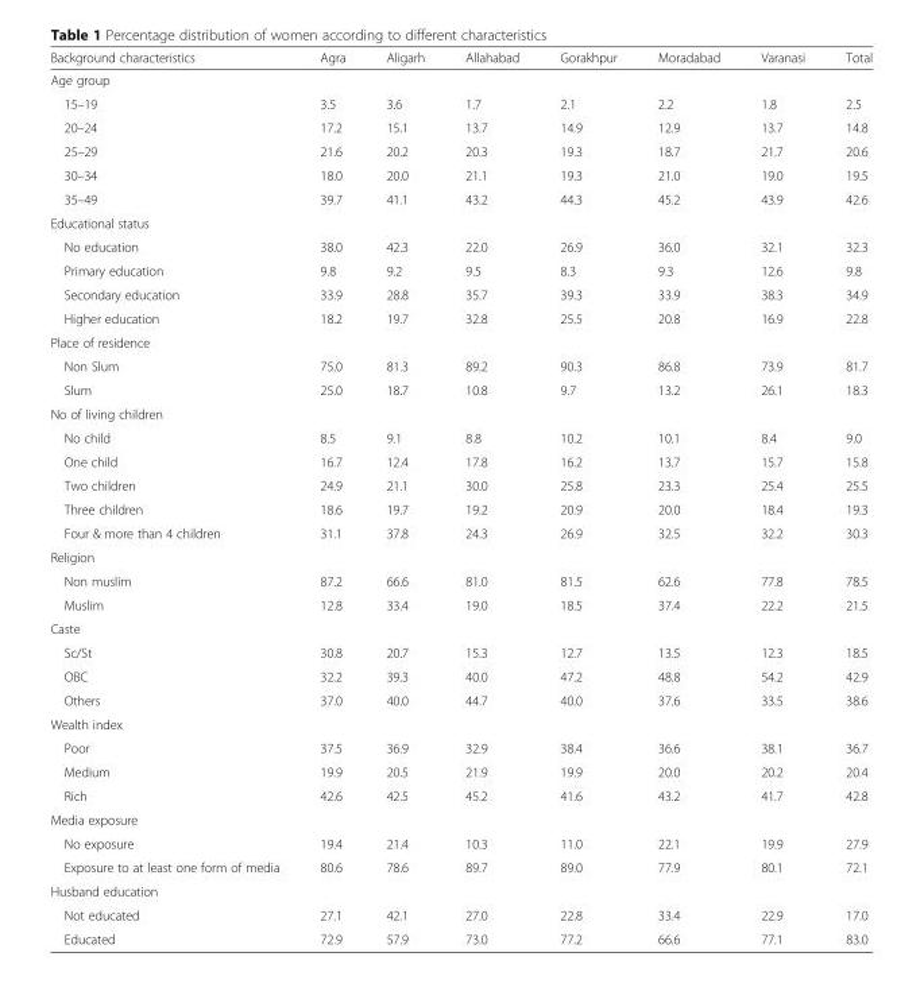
<table><thead><tr><td>Background characteristics</td><td>Agra</td><td>Aligarh</td><td>Allahabad</td><td>Gorakhpur</td><td>Moradabad</td><td>Varanasi</td><td>Total</td></tr></thead><tbody><tr><td colspan="8">Age group</td></tr><tr><td>15–19</td><td>3.5</td><td>3.6</td><td>1.7</td><td>2.1</td><td>2.2</td><td>1.8</td><td>2.5</td></tr><tr><td>20–24</td><td>17.2</td><td>15.1</td><td>13.7</td><td>14.9</td><td>12.9</td><td>13.7</td><td>14.8</td></tr><tr><td>25–29</td><td>21.6</td><td>20.2</td><td>20.3</td><td>19.3</td><td>18.7</td><td>21.7</td><td>20.6</td></tr><tr><td>30–34</td><td>18.0</td><td>20.0</td><td>21.1</td><td>19.3</td><td>21.0</td><td>19.0</td><td>19.5</td></tr><tr><td>35–49</td><td>39.7</td><td>41.1</td><td>43.2</td><td>44.3</td><td>45.2</td><td>43.9</td><td>42.6</td></tr><tr><td colspan="8">Educational status</td></tr><tr><td>No education</td><td>38.0</td><td>42.3</td><td>22.0</td><td>26.9</td><td>36.0</td><td>32.1</td><td>32.3</td></tr><tr><td>Primary education</td><td>9.8</td><td>9.2</td><td>9.5</td><td>8.3</td><td>9.3</td><td>12.6</td><td>9.8</td></tr><tr><td>Secondary education</td><td>33.9</td><td>28.8</td><td>35.7</td><td>39.3</td><td>33.9</td><td>38.3</td><td>34.9</td></tr><tr><td>Higher education</td><td>18.2</td><td>19.7</td><td>32.8</td><td>25.5</td><td>20.8</td><td>16.9</td><td>22.8</td></tr><tr><td colspan="8">Place of residence</td></tr><tr><td>Non Slum</td><td>75.0</td><td>81.3</td><td>89.2</td><td>90.3</td><td>86.8</td><td>73.9</td><td>81.7</td></tr><tr><td>Slum</td><td>25.0</td><td>18.7</td><td>10.8</td><td>9.7</td><td>13.2</td><td>26.1</td><td>18.3</td></tr><tr><td colspan="8">No of living children</td></tr><tr><td>No child</td><td>8.5</td><td>9.1</td><td>8.8</td><td>10.2</td><td>10.1</td><td>8.4</td><td>9.0</td></tr><tr><td>One child</td><td>16.7</td><td>12.4</td><td>17.8</td><td>16.2</td><td>13.7</td><td>15.7</td><td>15.8</td></tr><tr><td>Two children</td><td>24.9</td><td>21.1</td><td>30.0</td><td>25.8</td><td>23.3</td><td>25.4</td><td>25.5</td></tr><tr><td>Three children</td><td>18.6</td><td>19.7</td><td>19.2</td><td>20.9</td><td>20.0</td><td>18.4</td><td>19.3</td></tr><tr><td>Four &amp; more than 4 children</td><td>31.1</td><td>37.8</td><td>24.3</td><td>26.9</td><td>32.5</td><td>32.2</td><td>30.3</td></tr><tr><td colspan="8">Religion</td></tr><tr><td>Non muslim</td><td>87.2</td><td>66.6</td><td>81.0</td><td>81.5</td><td>62.6</td><td>77.8</td><td>78.5</td></tr><tr><td>Muslim</td><td>12.8</td><td>33.4</td><td>19.0</td><td>18.5</td><td>37.4</td><td>22.2</td><td>21.5</td></tr><tr><td colspan="8">Caste</td></tr><tr><td>Sc/St</td><td>30.8</td><td>20.7</td><td>15.3</td><td>12.7</td><td>13.5</td><td>12.3</td><td>18.5</td></tr><tr><td>OBC</td><td>32.2</td><td>39.3</td><td>40.0</td><td>47.2</td><td>48.8</td><td>54.2</td><td>42.9</td></tr><tr><td>Others</td><td>37.0</td><td>40.0</td><td>44.7</td><td>40.0</td><td>37.6</td><td>33.5</td><td>38.6</td></tr><tr><td colspan="8">Wealth index</td></tr><tr><td>Poor</td><td>37.5</td><td>36.9</td><td>32.9</td><td>38.4</td><td>36.6</td><td>38.1</td><td>36.7</td></tr><tr><td>Medium</td><td>19.9</td><td>20.5</td><td>21.9</td><td>19.9</td><td>20.0</td><td>20.2</td><td>20.4</td></tr><tr><td>Rich</td><td>42.6</td><td>42.5</td><td>45.2</td><td>41.6</td><td>43.2</td><td>41.7</td><td>42.8</td></tr><tr><td colspan="8">Media exposure</td></tr><tr><td>No exposure</td><td>19.4</td><td>21.4</td><td>10.3</td><td>11.0</td><td>22.1</td><td>19.9</td><td>27.9</td></tr><tr><td>Exposure to at least one form of media</td><td>80.6</td><td>78.6</td><td>89.7</td><td>89.0</td><td>77.9</td><td>80.1</td><td>72.1</td></tr><tr><td colspan="8">Husband education</td></tr><tr><td>Not educated</td><td>27.1</td><td>42.1</td><td>27.0</td><td>22.8</td><td>33.4</td><td>22.9</td><td>17.0</td></tr><tr><td>Educated</td><td>72.9</td><td>57.9</td><td>73.0</td><td>77.2</td><td>66.6</td><td>77.1</td><td>83.0</td></tr></tbody></table>